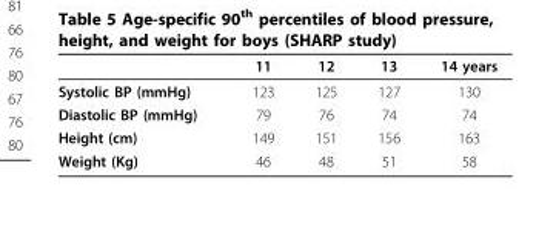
<table><thead><tr><td></td><td>11</td><td>12</td><td>13</td><td>14 years</td></tr></thead><tbody><tr><td>Systolic BP (mmHg)</td><td>123</td><td>125</td><td>127</td><td>130</td></tr><tr><td>Diastolic BP (mmHg)</td><td>79</td><td>76</td><td>74</td><td>74</td></tr><tr><td>Height (cm)</td><td>149</td><td>151</td><td>156</td><td>163</td></tr><tr><td>Weight (Kg)</td><td>46</td><td>48</td><td>51</td><td>58</td></tr></tbody></table>